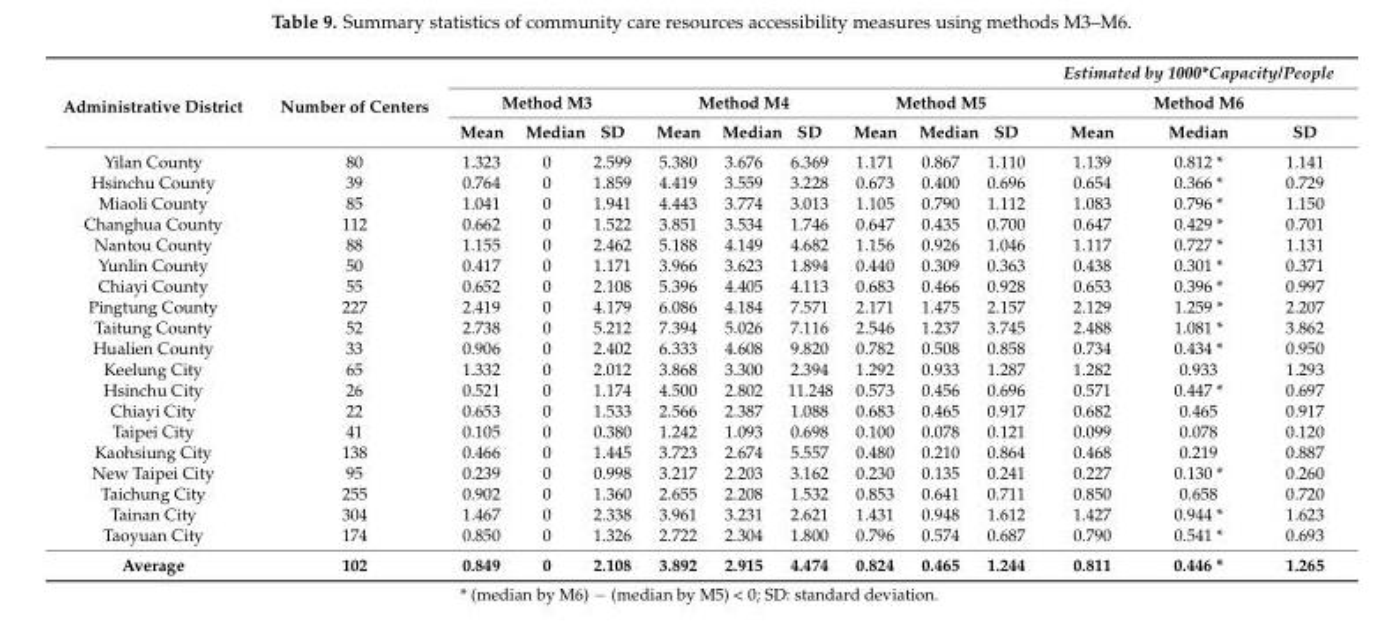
<table><thead><tr><td rowspan="3">Administrative District</td><td rowspan="3">Number of Centers</td><td></td><td></td><td></td><td></td><td></td><td></td><td></td><td></td><td></td><td rowspan="2" colspan="3">Estimated by 1000*Capacity/People Method M6</td></tr><tr><td colspan="3">Method M3</td><td colspan="3">Method M4</td><td colspan="3">Method M5</td></tr><tr><td>Mean</td><td>Median</td><td>SD</td><td>Mean</td><td>Median</td><td>SD</td><td>Mean</td><td>Median</td><td>SD</td><td>Mean</td><td>Median</td><td>SD</td></tr></thead><tbody><tr><td>Yilan County</td><td>80</td><td>1.323</td><td>0</td><td>2.599</td><td>5.380</td><td>3.676</td><td>6.369</td><td>1.171</td><td>0.867</td><td>1.110</td><td>1.139</td><td>0.812 *</td><td>1.141</td></tr><tr><td>Hsinchu County</td><td>39</td><td>0.764</td><td>0</td><td>1.859</td><td>4.419</td><td>3.559</td><td>3.228</td><td>0.673</td><td>0.400</td><td>0.696</td><td>0.654</td><td>0.366 *</td><td>0.729</td></tr><tr><td>Miaoli County</td><td>85</td><td>1.041</td><td>0</td><td>1.941</td><td>4.443</td><td>3.774</td><td>3.013</td><td>1.105</td><td>0.790</td><td>1.112</td><td>1.083</td><td>0.796 *</td><td>1.150</td></tr><tr><td>Changhua County</td><td>112</td><td>0.662</td><td>0</td><td>1.522</td><td>3.851</td><td>3.534</td><td>1.746</td><td>0.647</td><td>0.435</td><td>0.700</td><td>0.647</td><td>0.429 *</td><td>0.701</td></tr><tr><td>Nantou County</td><td>88</td><td>1.155</td><td>0</td><td>2.462</td><td>5.188</td><td>4.149</td><td>4.682</td><td>1.156</td><td>0.926</td><td>1.046</td><td>1.117</td><td>0.727 *</td><td>1.131</td></tr><tr><td>Yunlin County</td><td>50</td><td>0.417</td><td>0</td><td>1.171</td><td>3.966</td><td>3.623</td><td>1.894</td><td>0.440</td><td>0.309</td><td>0.363</td><td>0.438</td><td>0.301 *</td><td>0.371</td></tr><tr><td>Chiayi County</td><td>55</td><td>0.652</td><td>0</td><td>2.108</td><td>5.396</td><td>4.405</td><td>4.113</td><td>0.683</td><td>0.466</td><td>0.928</td><td>0.653</td><td>0.396 *</td><td>0.997</td></tr><tr><td>Pingtung County</td><td>227</td><td>2.419</td><td>0</td><td>4.179</td><td>6.086</td><td>4.184</td><td>7.571</td><td>2.171</td><td>1.475</td><td>2.157</td><td>2.129</td><td>1.259 *</td><td>2.207</td></tr><tr><td>Taitung County</td><td>52</td><td>2.738</td><td>0</td><td>5.212</td><td>7.394</td><td>5.026</td><td>7.116</td><td>2.546</td><td>1.237</td><td>3.745</td><td>2.488</td><td>1.081 *</td><td>3.862</td></tr><tr><td>Hualien County</td><td>33</td><td>0.906</td><td>0</td><td>2.402</td><td>6.333</td><td>4.608</td><td>9.820</td><td>0.782</td><td>0.508</td><td>0.858</td><td>0.734</td><td>0.434 *</td><td>0.950</td></tr><tr><td>Keelung City</td><td>65</td><td>1.332</td><td>0</td><td>2.012</td><td>3.868</td><td>3.300</td><td>2.394</td><td>1.292</td><td>0.933</td><td>1.287</td><td>1.282</td><td>0.933</td><td>1.293</td></tr><tr><td>Hsinchu City</td><td>26</td><td>0.521</td><td>0</td><td>1.174</td><td>4.500</td><td>2.802</td><td>11.248</td><td>0.573</td><td>0.456</td><td>0.696</td><td>0.571</td><td>0.447 *</td><td>0.697</td></tr><tr><td>Chiayi City</td><td>22</td><td>0.653</td><td>0</td><td>1.533</td><td>2.566</td><td>2.387</td><td>1.088</td><td>0.683</td><td>0.465</td><td>0.917</td><td>0.682</td><td>0.465</td><td>0.917</td></tr><tr><td>Taipei City</td><td>41</td><td>0.105</td><td>0</td><td>0.380</td><td>1.242</td><td>1.093</td><td>0.698</td><td>0.100</td><td>0.078</td><td>0.121</td><td>0.099</td><td>0.078</td><td>0.120</td></tr><tr><td>Kaohsiung City</td><td>138</td><td>0.466</td><td>0</td><td>1.445</td><td>3.723</td><td>2.674</td><td>5.557</td><td>0.480</td><td>0.210</td><td>0.864</td><td>0.468</td><td>0.219</td><td>0.887</td></tr><tr><td>New Taipei City</td><td>95</td><td>0.239</td><td>0</td><td>0.998</td><td>3.217</td><td>2.203</td><td>3.162</td><td>0.230</td><td>0.135</td><td>0.241</td><td>0.227</td><td>0.130 *</td><td>0.260</td></tr><tr><td>Taichung City</td><td>255</td><td>0.902</td><td>0</td><td>1.360</td><td>2.655</td><td>2.208</td><td>1.532</td><td>0.853</td><td>0.641</td><td>0.711</td><td>0.850</td><td>0.658</td><td>0.720</td></tr><tr><td>Tainan City</td><td>304</td><td>1.467</td><td>0</td><td>2.338</td><td>3.961</td><td>3.231</td><td>2.621</td><td>1.431</td><td>0.948</td><td>1.612</td><td>1.427</td><td>0.944 *</td><td>1.623</td></tr><tr><td>Taoyuan City</td><td>174</td><td>0.850</td><td>0</td><td>1.326</td><td>2.722</td><td>2.304</td><td>1.800</td><td>0.796</td><td>0.574</td><td>0.687</td><td>0.790</td><td>0.541 *</td><td>0.693</td></tr><tr><td>Average</td><td>102</td><td>0.849</td><td>0</td><td>2.108</td><td>3.892</td><td>2.915</td><td>4.474</td><td>0.824</td><td>0.465</td><td>1.244</td><td>0.811</td><td>0.446 *</td><td>1.265</td></tr></tbody></table>